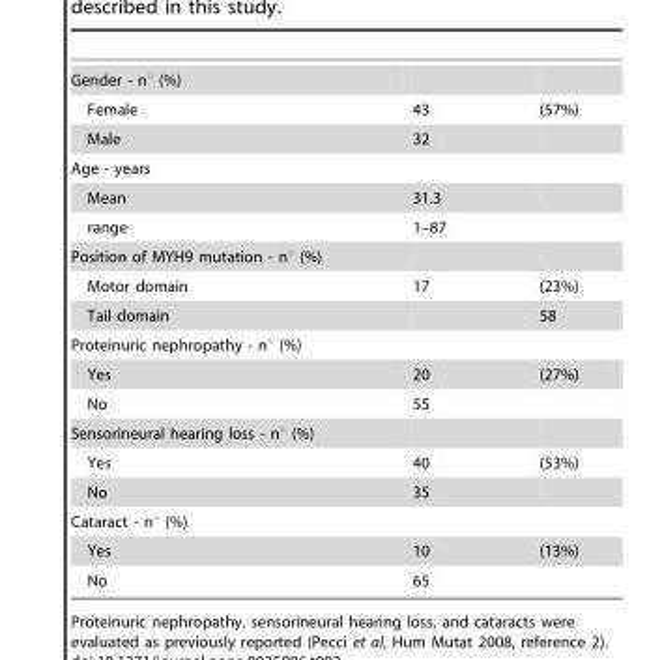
<table><tbody><tr><td colspan="3">Gender - n° (%)</td></tr><tr><td>Female</td><td>43</td><td>(57%)</td></tr><tr><td>Male</td><td>32</td><td></td></tr><tr><td colspan="3">Age - years</td></tr><tr><td>Mean</td><td>31.3</td><td></td></tr><tr><td>range</td><td>1–87</td><td></td></tr><tr><td colspan="3">Position of MYH9 mutation - n° (%)</td></tr><tr><td>Motor domain</td><td>17</td><td>(23%)</td></tr><tr><td>Tail domain</td><td></td><td>58</td></tr><tr><td colspan="3">Proteinuric nephropathy - n° (%)</td></tr><tr><td>Yes</td><td>20</td><td>(27%)</td></tr><tr><td>No</td><td>55</td><td></td></tr><tr><td colspan="3">Sensorineural hearing loss - n° (%)</td></tr><tr><td>Yes</td><td>40</td><td>(53%)</td></tr><tr><td>No</td><td>35</td><td></td></tr><tr><td colspan="3">Cataract - n° (%)</td></tr><tr><td>Yes</td><td>10</td><td>(13%)</td></tr><tr><td>No</td><td>65</td><td></td></tr></tbody></table>